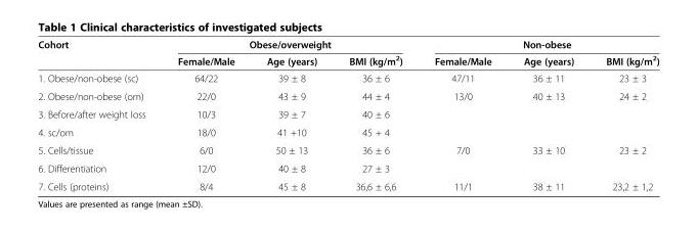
<table><thead><tr><td rowspan="2">Cohort</td><td colspan="3">Obese/overweight</td><td colspan="3">Non-obese</td></tr><tr><td>Female/Male</td><td>Age (years)</td><td>BMI (kg/m<sup>2</sup>)</td><td>Female/Male</td><td>Age (years)</td><td>BMI (kg/m<sup>2</sup>)</td></tr></thead><tbody><tr><td>1. Obese/non-obese (sc)</td><td>64/22</td><td>39 ± 8</td><td>36 ± 6</td><td>47/11</td><td>36 ± 11</td><td>23 ± 3</td></tr><tr><td>2. Obese/non-obese (om)</td><td>22/0</td><td>43 ± 9</td><td>44 ± 4</td><td>13/0</td><td>40 ± 13</td><td>24 ± 2</td></tr><tr><td>3. Before/after weight loss</td><td>10/3</td><td>39 ± 7</td><td>40 ± 6</td><td></td><td></td><td></td></tr><tr><td>4. sc/om</td><td>18/0</td><td>41 +10</td><td>45 + 4</td><td></td><td></td><td></td></tr><tr><td>5. Cells/tissue</td><td>6/0</td><td>50 ± 13</td><td>36 ± 6</td><td>7/0</td><td>33 ± 10</td><td>23 ± 2</td></tr><tr><td>6. Differentiation</td><td>12/0</td><td>40 ± 8</td><td>27 ± 3</td><td></td><td></td><td></td></tr><tr><td>7. Cells (proteins)</td><td>8/4</td><td>45 ± 8</td><td>36,6 ± 6,6</td><td>11/1</td><td>38 ± 11</td><td>23,2 ± 1,2</td></tr></tbody></table>